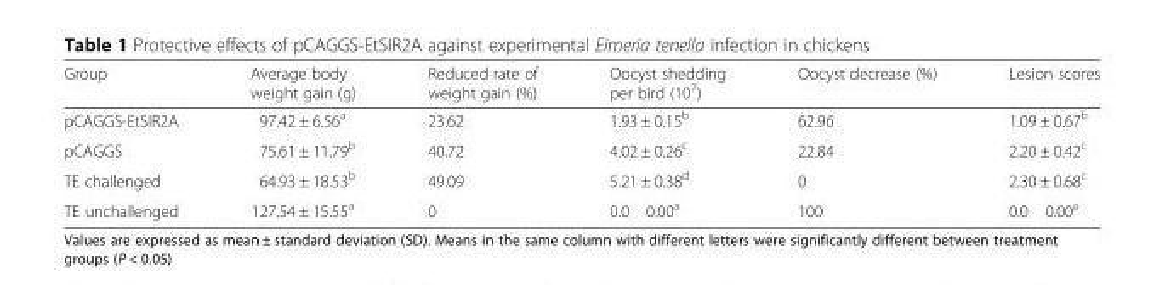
<table><thead><tr><td>Group</td><td>Average body weight gain (g)</td><td>Reduced rate of weight gain (%)</td><td>Oocyst shedding per bird (10<sup>7</sup>)</td><td>Oocyst decrease (%)</td><td>Lesion scores</td></tr></thead><tbody><tr><td>pCAGGS-EtSIR2A</td><td>97.42 ± 6.56<sup>a</sup></td><td>23.62</td><td>1.93 ± 0.15<sup>b</sup></td><td>62.96</td><td>1.09 ± 0.67<sup>b</sup></td></tr><tr><td>pCAGGS</td><td>75.61 ± 11.79<sup>b</sup></td><td>40.72</td><td>4.02 ± 0.26<sup>c</sup></td><td>22.84</td><td>2.20 ± 0.42<sup>c</sup></td></tr><tr><td>TE challenged</td><td>64.93 ± 18.53<sup>b</sup></td><td>49.09</td><td>5.21 ± 0.38<sup>d</sup></td><td>0</td><td>2.30 ± 0.68<sup>c</sup></td></tr><tr><td>TE unchallenged</td><td>127.54 ± 15.55<sup>a</sup></td><td>0</td><td>0.0 0.00<sup>a</sup></td><td>100</td><td>0.0 0.00<sup>a</sup></td></tr></tbody></table>